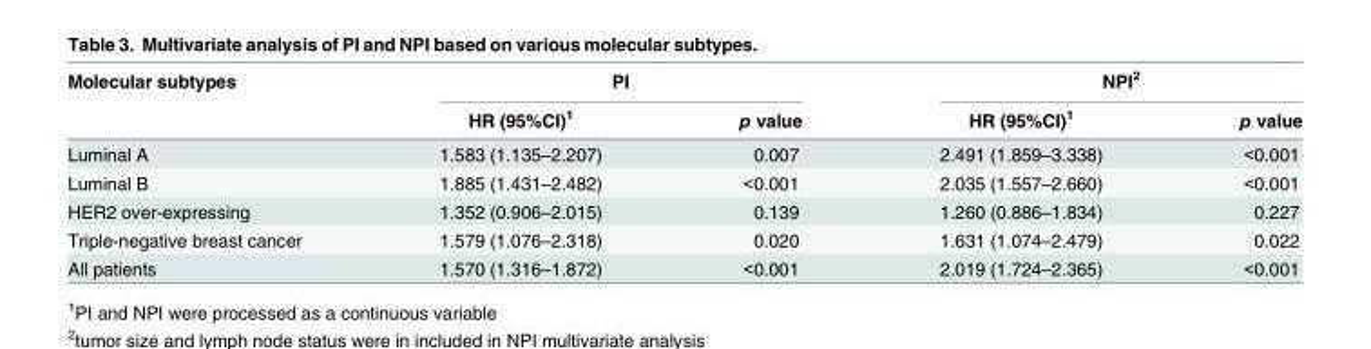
<table><thead><tr><td rowspan="2">Molecular subtypes</td><td colspan="2">PI</td><td colspan="2">NPI<sup>2</sup></td></tr><tr><td>HR (95%CI)<sup>1</sup></td><td>p value</td><td>HR (95%CI)<sup>1</sup></td><td>p value</td></tr></thead><tbody><tr><td>Luminal A</td><td>1.583 (1.135–2.207)</td><td>0.007</td><td>2.491 (1.859–3.338)</td><td>&lt;0.001</td></tr><tr><td>Luminal B</td><td>1.885 (1.431–2.482)</td><td>&lt;0.001</td><td>2.035 (1.557–2.660)</td><td>&lt;0.001</td></tr><tr><td>HER2 over-expressing</td><td>1.352 (0.906–2.015)</td><td>0.139</td><td>1.260 (0.886–1.834)</td><td>0.227</td></tr><tr><td>Triple-negative breast cancer</td><td>1.579 (1.076–2.318)</td><td>0.020</td><td>1.631 (1.074–2.479)</td><td>0.022</td></tr><tr><td>All patients</td><td>1.570 (1.316–1.872)</td><td>&lt;0.001</td><td>2.019 (1.724–2.365)</td><td>&lt;0.001</td></tr></tbody></table>